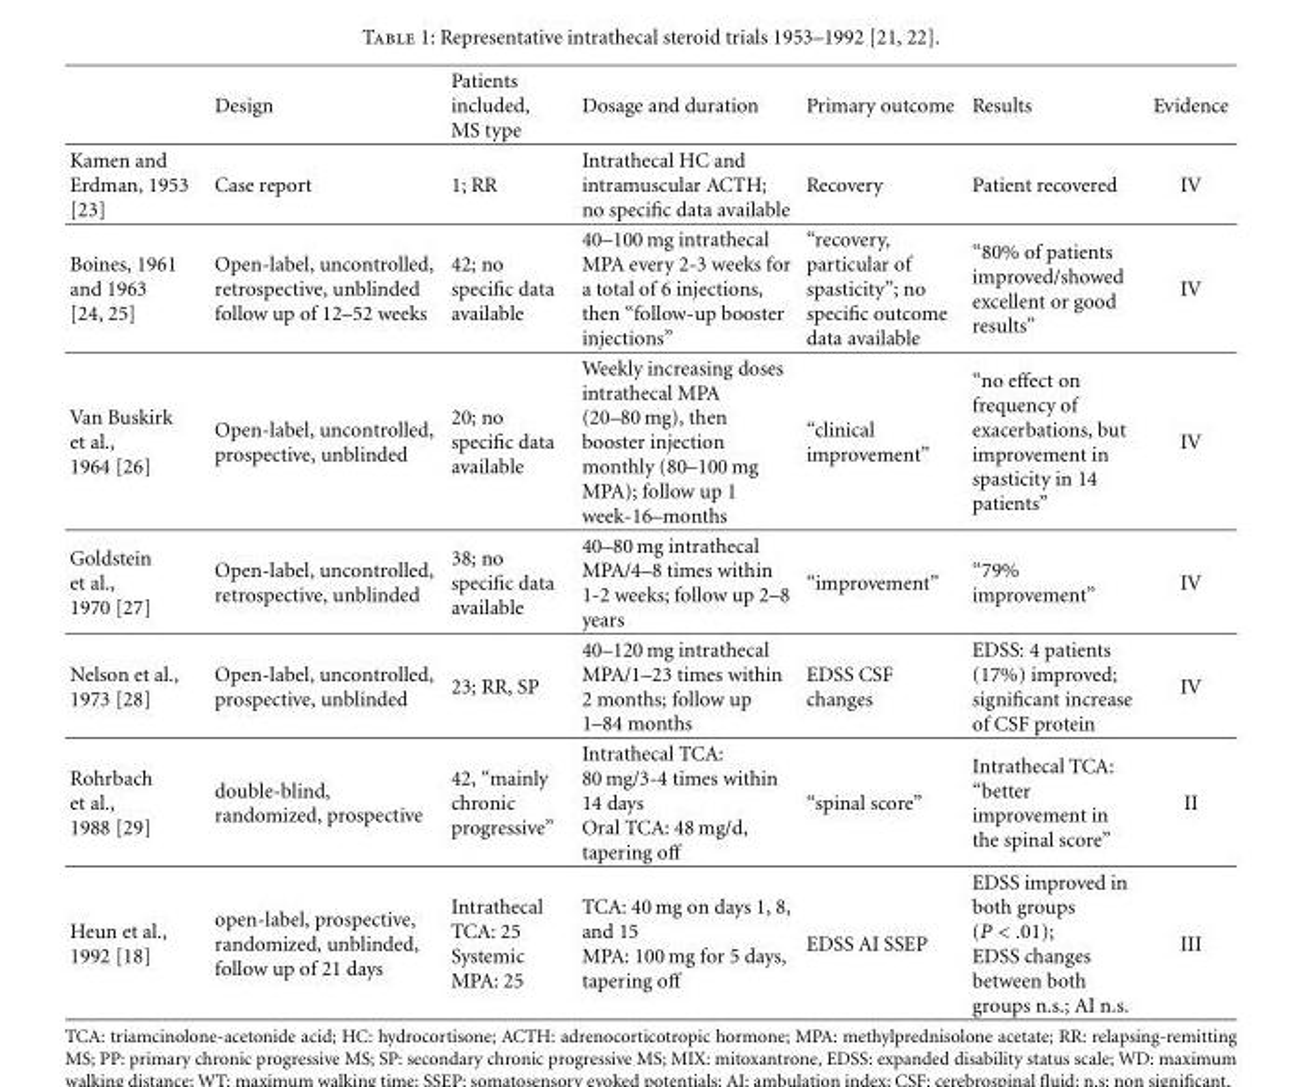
<table><thead><tr><td></td><td>Design</td><td>Patients included, MS type</td><td>Dosage and duration</td><td>Primary outcome</td><td>Results</td><td>Evidence</td></tr></thead><tbody><tr><td>Kamen and Erdman, 1953 [23]</td><td>Case report</td><td>1; RR</td><td>Intrathecal HC and intramuscular ACTH; no specific data available</td><td>Recovery</td><td>Patient recovered</td><td>IV</td></tr><tr><td>Boines, 1961 and 1963 [24, 25]</td><td>Open-label, uncontrolled, retrospective, unblinded follow up of 12–52 weeks</td><td>42; no specific data available</td><td>40–100 mg intrathecal MPA every 2-3 weeks for a total of 6 injections, then “follow-up booster injections”</td><td>“recovery, particular of spasticity”; no specific outcome data available</td><td>“80% of patients improved/showed excellent or good results”</td><td>IV</td></tr><tr><td>Van Buskirk et al., 1964 [26]</td><td>Open-label, uncontrolled, prospective, unblinded</td><td>20; no specific data available</td><td>Weekly increasing doses intrathecal MPA (20–80 mg), then booster injection monthly (80–100 mg MPA); follow up 1 week-16–months</td><td>“clinical improvement”</td><td>“no effect on frequency of exacerbations, but improvement in spasticity in 14 patients”</td><td>IV</td></tr><tr><td>Goldstein et al., 1970 [27]</td><td>Open-label, uncontrolled, retrospective, unblinded</td><td>38; no specific data available</td><td>40–80 mg intrathecal MPA/4–8 times within 1-2 weeks; follow up 2–8 years</td><td>“improvement”</td><td>“79% improvement”</td><td>IV</td></tr><tr><td>Nelson et al., 1973 [28]</td><td>Open-label, uncontrolled, prospective, unblinded</td><td>23; RR, SP</td><td>40–120 mg intrathecal MPA/1–23 times within 2 months; follow up 1–84 months</td><td>EDSS CSF changes</td><td>EDSS: 4 patients (17%) improved; significant increase of CSF protein</td><td>IV</td></tr><tr><td>Rohrbach et al., 1988 [29]</td><td>double-blind, randomized, prospective</td><td>42, “mainly chronic progressive”</td><td>Intrathecal TCA: 80 mg/3-4 times within 14 days Oral TCA: 48 mg/d, tapering off</td><td>“spinal score”</td><td>Intrathecal TCA: “better improvement in the spinal score”</td><td>II</td></tr><tr><td>Heun et al., 1992 [18]</td><td>open-label, prospective, randomized, unblinded, follow up of 21 days</td><td>Intrathecal TCA: 25 Systemic MPA: 25</td><td>TCA: 40 mg on days 1, 8, and 15 MPA: 100 mg for 5 days, tapering off</td><td>EDSS AI SSEP</td><td>EDSS improved in both groups (P &lt; .01); EDSS changes between both groups n.s.; AI n.s.</td><td>III</td></tr></tbody></table>